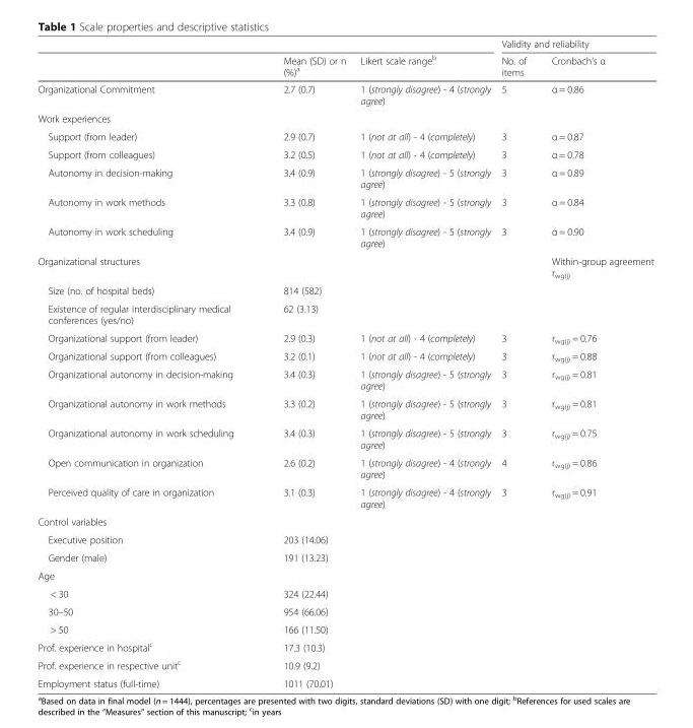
<table><thead><tr><td rowspan="2"></td><td rowspan="2">Mean (SD) or n (%)<sup>a</sup></td><td rowspan="2">Likert scale range<sup>b</sup></td><td colspan="2">Validity and reliability</td></tr><tr><td>No. of items</td><td>Cronbach’s α</td></tr></thead><tbody><tr><td>Organizational Commitment</td><td>2.7 (0.7)</td><td>1 (strongly disagree) - 4 (strongly agree)</td><td>5</td><td>α = 0.86</td></tr><tr><td colspan="5">Work experiences</td></tr><tr><td>Support (from leader)</td><td>2.9 (0.7)</td><td>1 (not at all) - 4 (completely)</td><td>3</td><td>α = 0.87</td></tr><tr><td>Support (from colleagues)</td><td>3.2 (0.5)</td><td>1 (not at all) - 4 (completely)</td><td>3</td><td>α = 0.78</td></tr><tr><td>Autonomy in decision-making</td><td>3.4 (0.9)</td><td>1 (strongly disagree) - 5 (strongly agree)</td><td>3</td><td>α = 0.89</td></tr><tr><td>Autonomy in work methods</td><td>3.3 (0.8)</td><td>1 (strongly disagree) - 5 (strongly agree)</td><td>3</td><td>α = 0.84</td></tr><tr><td>Autonomy in work scheduling</td><td>3.4 (0.9)</td><td>1 (strongly disagree) - 5 (strongly agree)</td><td>3</td><td>α = 0.90</td></tr><tr><td colspan="4">Organizational structures</td><td>Within-group agreement r<sub>wg(j)</sub></td></tr><tr><td>Size (no. of hospital beds)</td><td>814 (582)</td><td></td><td></td><td></td></tr><tr><td>Existence of regular interdisciplinary medical conferences (yes/no)</td><td>62 (3.13)</td><td></td><td></td><td></td></tr><tr><td>Organizational support (from leader)</td><td>2.9 (0.3)</td><td>1 (not at all) - 4 (completely)</td><td>3</td><td>r<sub>wg(j)</sub> = 0.76</td></tr><tr><td>Organizational support (from colleagues)</td><td>3.2 (0.1)</td><td>1 (not at all) - 4 (completely)</td><td>3</td><td>r<sub>wg(j)</sub> = 0.88</td></tr><tr><td>Organizational autonomy in decision-making</td><td>3.4 (0.3)</td><td>1 (strongly disagree) - 5 (strongly agree)</td><td>3</td><td>r<sub>wg(j)</sub> = 0.81</td></tr><tr><td>Organizational autonomy in work methods</td><td>3.3 (0.2)</td><td>1 (strongly disagree) - 5 (strongly agree)</td><td>3</td><td>r<sub>wg(j)</sub> = 0.81</td></tr><tr><td>Organizational autonomy in work scheduling</td><td>3.4 (0.3)</td><td>1 (strongly disagree) - 5 (strongly agree)</td><td>3</td><td>r<sub>wg(j)</sub> = 0.75</td></tr><tr><td>Open communication in organization</td><td>2.6 (0.2)</td><td>1 (strongly disagree) - 4 (strongly agree)</td><td>4</td><td>r<sub>wg(j)</sub> = 0.86</td></tr><tr><td>Perceived quality of care in organization</td><td>3.1 (0.3)</td><td>1 (strongly disagree) - 4 (strongly agree)</td><td>3</td><td>r<sub>wg(j)</sub> = 0.91</td></tr><tr><td colspan="5">Control variables</td></tr><tr><td>Executive position</td><td>203 (14.06)</td><td></td><td></td><td></td></tr><tr><td>Gender (male)</td><td>191 (13.23)</td><td></td><td></td><td></td></tr><tr><td colspan="5">Age</td></tr><tr><td>&lt; 30</td><td>324 (22.44)</td><td></td><td></td><td></td></tr><tr><td>30–50</td><td>954 (66.06)</td><td></td><td></td><td></td></tr><tr><td>&gt; 50</td><td>166 (11.50)</td><td></td><td></td><td></td></tr><tr><td>Prof. experience in hospital<sup>c</sup></td><td>17.3 (10.3)</td><td></td><td></td><td></td></tr><tr><td>Prof. experience in respective unit<sup>c</sup></td><td>10.9 (9.2)</td><td></td><td></td><td></td></tr><tr><td>Employment status (full-time)</td><td>1011 (70.01)</td><td></td><td></td><td></td></tr></tbody></table>